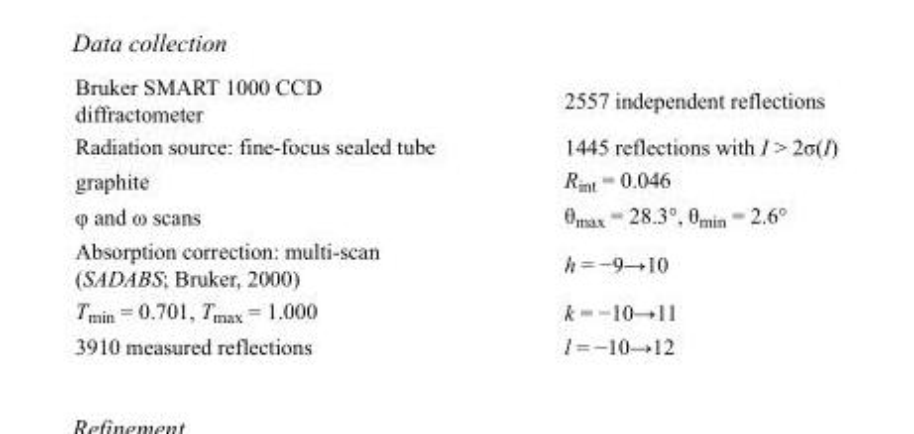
<table><tbody><tr><td>Bruker SMART 1000 CCD diffractometer</td><td>2557 independent reflections</td></tr><tr><td>Radiation source: fine-focus sealed tube</td><td>1445 reflections with I &gt; 2σ(I)</td></tr><tr><td>graphite</td><td>R<sub>int</sub> = 0.046</td></tr><tr><td>φ and ω scans</td><td>θ<sub>max</sub> = 28.3°, θ<sub>min</sub> = 2.6°</td></tr><tr><td>Absorption correction: multi-scan (SADABS; Bruker, 2000)</td><td>h = −9→10</td></tr><tr><td>T<sub>min</sub> = 0.701, T<sub>max</sub> = 1.000</td><td>k = −10→11</td></tr><tr><td>3910 measured reflections</td><td>l = −10→12</td></tr></tbody></table>